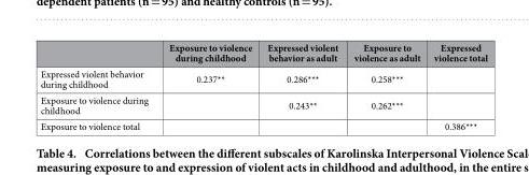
<table><thead><tr><td></td><td>Exposure to violence during childhood</td><td>Expressed violent behavior as adult</td><td>Exposure to violence as adult</td><td>Expressed violence total</td></tr></thead><tbody><tr><td>Expressed violent behavior during childhood</td><td>0.237**</td><td>0.286***</td><td>0.258***</td><td></td></tr><tr><td>Exposure to violence during childhood</td><td></td><td>0.243**</td><td>0.262***</td><td></td></tr><tr><td>Exposure to violence total</td><td></td><td></td><td></td><td>0.386***</td></tr></tbody></table>